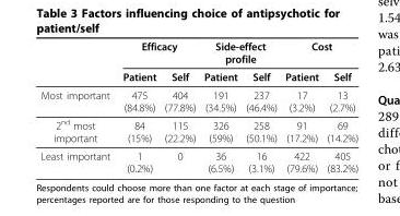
<table><thead><tr><td rowspan="2"></td><td colspan="2">Efficacy</td><td colspan="2">Side-effect profile</td><td colspan="2">Cost</td></tr><tr><td>Patient</td><td>Self</td><td>Patient</td><td>Self</td><td>Patient</td><td>Self</td></tr></thead><tbody><tr><td>Most important</td><td>475 (84.8%)</td><td>404 (77.8%)</td><td>191 (34.5%)</td><td>237 (46.4%)</td><td>17 (3.2%)</td><td>13 (2.7%)</td></tr><tr><td>2<sup>nd</sup> most important</td><td>84 (15%)</td><td>115 (22.2%)</td><td>326 (59%)</td><td>258 (50.1%)</td><td>91 (17.2%)</td><td>69 (14.2%)</td></tr><tr><td>Least important</td><td>1 (0.2%)</td><td>0</td><td>36 (6.5%)</td><td>16 (3.1%)</td><td>422 (79.6%)</td><td>405 (83.2%)</td></tr></tbody></table>